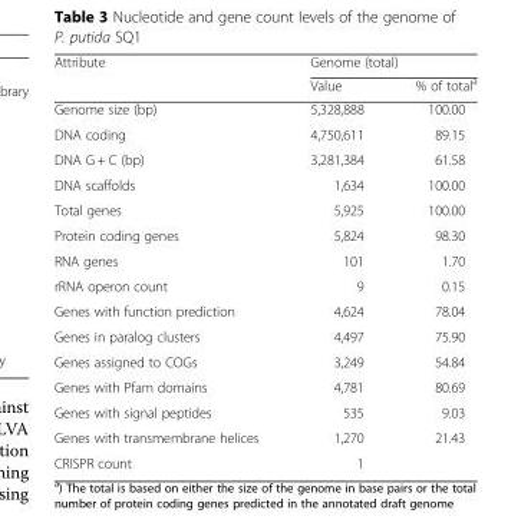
<table><thead><tr><td rowspan="2">Attribute</td><td colspan="2">Genome (total)</td></tr><tr><td>Value</td><td>% of total<sup>a</sup></td></tr></thead><tbody><tr><td>Genome size (bp)</td><td>5,328,888</td><td>100.00</td></tr><tr><td>DNA coding</td><td>4,750,611</td><td>89.15</td></tr><tr><td>DNA G + C (bp)</td><td>3,281,384</td><td>61.58</td></tr><tr><td>DNA scaffolds</td><td>1,634</td><td>100.00</td></tr><tr><td>Total genes</td><td>5,925</td><td>100.00</td></tr><tr><td>Protein coding genes</td><td>5,824</td><td>98.30</td></tr><tr><td>RNA genes</td><td>101</td><td>1.70</td></tr><tr><td>rRNA operon count</td><td>9</td><td>0.15</td></tr><tr><td>Genes with function prediction</td><td>4,624</td><td>78.04</td></tr><tr><td>Genes in paralog clusters</td><td>4,497</td><td>75.90</td></tr><tr><td>Genes assigned to COGs</td><td>3,249</td><td>54.84</td></tr><tr><td>Genes with Pfam domains</td><td>4,781</td><td>80.69</td></tr><tr><td>Genes with signal peptides</td><td>535</td><td>9.03</td></tr><tr><td>Genes with transmembrane helices</td><td>1,270</td><td>21.43</td></tr><tr><td>CRISPR count</td><td>1</td><td></td></tr></tbody></table>